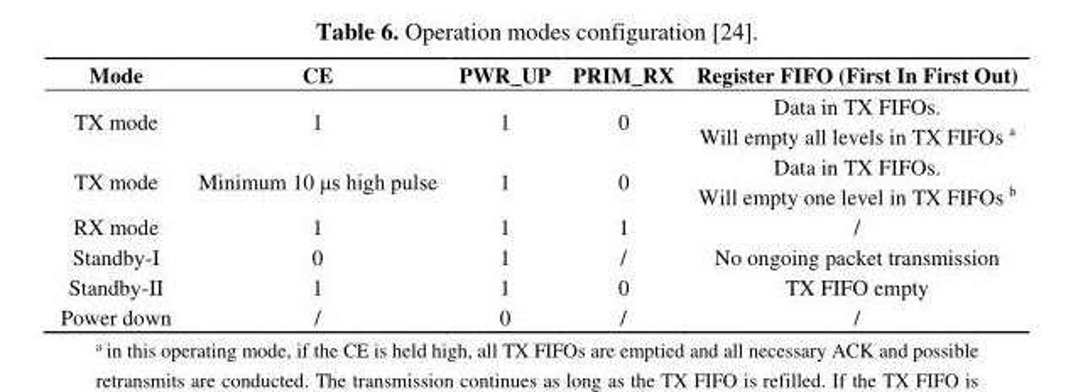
<table><thead><tr><td>Mode</td><td>CE</td><td>PWR_UP</td><td>PRIM_RX</td><td>Register FIFO (First In First Out)</td></tr></thead><tbody><tr><td>TX mode</td><td>1</td><td>1</td><td>0</td><td>Data in TX FIFOs. Will empty all levels in TX FIFOs <sup>a</sup></td></tr><tr><td>TX mode</td><td>Minimum 10 μs high pulse</td><td>1</td><td>0</td><td>Data in TX FIFOs. Will empty one level in TX FIFOs <sup>b</sup></td></tr><tr><td>RX mode</td><td>1</td><td>1</td><td>1</td><td>/</td></tr><tr><td>Standby-I</td><td>0</td><td>1</td><td>/</td><td>No ongoing packet transmission</td></tr><tr><td>Standby-II</td><td>1</td><td>1</td><td>0</td><td>TX FIFO empty</td></tr><tr><td>Power down</td><td>/</td><td>0</td><td>/</td><td>/</td></tr></tbody></table>